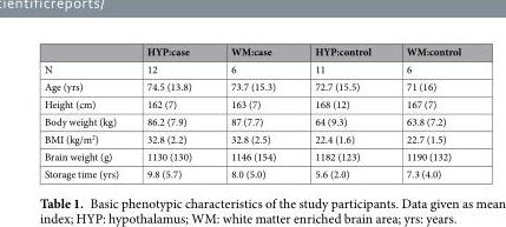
<table><thead><tr><td></td><td>HYP:case</td><td>WM:case</td><td>HYP:control</td><td>WM:control</td></tr></thead><tbody><tr><td>N</td><td>12</td><td>6</td><td>11</td><td>6</td></tr><tr><td>Age (yrs)</td><td>74.5 (13.8)</td><td>73.7 (15.3)</td><td>72.7 (15.5)</td><td>71 (16)</td></tr><tr><td>Height (cm)</td><td>162 (7)</td><td>163 (7)</td><td>168 (12)</td><td>167 (7)</td></tr><tr><td>Body weight (kg)</td><td>86.2 (7.9)</td><td>87 (7.7)</td><td>64 (9.3)</td><td>63.8 (7.2)</td></tr><tr><td>BMI (kg/m<sup>2</sup>)</td><td>32.8 (2.2)</td><td>32.8 (2.5)</td><td>22.4 (1.6)</td><td>22.7 (1.5)</td></tr><tr><td>Brain weight (g)</td><td>1130 (130)</td><td>1146 (154)</td><td>1182 (123)</td><td>1190 (132)</td></tr><tr><td>Storage time (yrs)</td><td>9.8 (5.7)</td><td>8.0 (5.0)</td><td>5.6 (2.0)</td><td>7.3 (4.0)</td></tr></tbody></table>